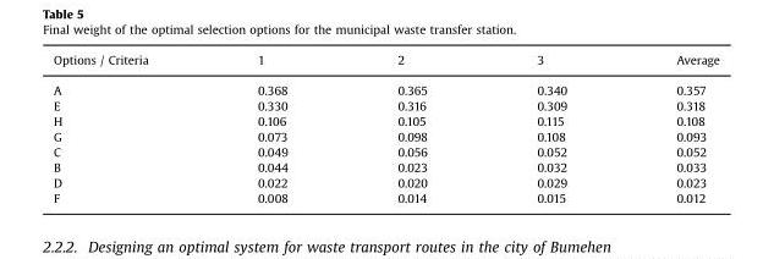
<table><thead><tr><td>Options / Criteria</td><td>1</td><td>2</td><td>3</td><td>Average</td></tr></thead><tbody><tr><td>A</td><td>0.368</td><td>0.365</td><td>0.340</td><td>0.357</td></tr><tr><td>E</td><td>0.330</td><td>0.316</td><td>0.309</td><td>0.318</td></tr><tr><td>H</td><td>0.106</td><td>0.105</td><td>0.115</td><td>0.108</td></tr><tr><td>G</td><td>0.073</td><td>0.098</td><td>0.108</td><td>0.093</td></tr><tr><td>C</td><td>0.049</td><td>0.056</td><td>0.052</td><td>0.052</td></tr><tr><td>B</td><td>0.044</td><td>0.023</td><td>0.032</td><td>0.033</td></tr><tr><td>D</td><td>0.022</td><td>0.020</td><td>0.029</td><td>0.023</td></tr><tr><td>F</td><td>0.008</td><td>0.014</td><td>0.015</td><td>0.012</td></tr></tbody></table>